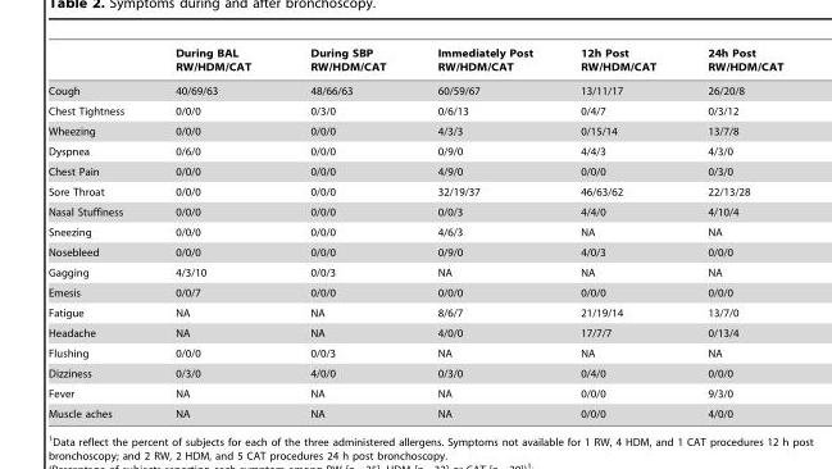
<table><thead><tr><td></td><td>During BAL RW/HDM/CAT</td><td>During SBP RW/HDM/CAT</td><td>Immediately Post RW/HDM/CAT</td><td>12h Post RW/HDM/CAT</td><td>24h Post RW/HDM/CAT</td></tr></thead><tbody><tr><td>Cough</td><td>40/69/63</td><td>48/66/63</td><td>60/59/67</td><td>13/11/17</td><td>26/20/8</td></tr><tr><td>Chest Tightness</td><td>0/0/0</td><td>0/3/0</td><td>0/6/13</td><td>0/4/7</td><td>0/3/12</td></tr><tr><td>Wheezing</td><td>0/0/0</td><td>0/0/0</td><td>4/3/3</td><td>0/15/14</td><td>13/7/8</td></tr><tr><td>Dyspnea</td><td>0/6/0</td><td>0/0/0</td><td>0/9/0</td><td>4/4/3</td><td>4/3/0</td></tr><tr><td>Chest Pain</td><td>0/0/0</td><td>0/0/0</td><td>4/9/0</td><td>0/0/0</td><td>0/3/0</td></tr><tr><td>Sore Throat</td><td>0/0/0</td><td>0/0/0</td><td>32/19/37</td><td>46/63/62</td><td>22/13/28</td></tr><tr><td>Nasal Stuffiness</td><td>0/0/0</td><td>0/0/0</td><td>0/0/3</td><td>4/4/0</td><td>4/10/4</td></tr><tr><td>Sneezing</td><td>0/0/0</td><td>0/0/0</td><td>4/6/3</td><td>NA</td><td>NA</td></tr><tr><td>Nosebleed</td><td>0/0/0</td><td>0/0/0</td><td>0/9/0</td><td>4/0/3</td><td>0/0/0</td></tr><tr><td>Gagging</td><td>4/3/10</td><td>0/0/3</td><td>NA</td><td>NA</td><td>NA</td></tr><tr><td>Emesis</td><td>0/0/7</td><td>0/0/0</td><td>0/0/0</td><td>0/0/0</td><td>0/0/0</td></tr><tr><td>Fatigue</td><td>NA</td><td>NA</td><td>8/6/7</td><td>21/19/14</td><td>13/7/0</td></tr><tr><td>Headache</td><td>NA</td><td>NA</td><td>4/0/0</td><td>17/7/7</td><td>0/13/4</td></tr><tr><td>Flushing</td><td>0/0/0</td><td>0/0/3</td><td>NA</td><td>NA</td><td>NA</td></tr><tr><td>Dizziness</td><td>0/3/0</td><td>4/0/0</td><td>0/3/0</td><td>0/4/0</td><td>0/0/0</td></tr><tr><td>Fever</td><td>NA</td><td>NA</td><td>NA</td><td>0/0/0</td><td>9/3/0</td></tr><tr><td>Muscle aches</td><td>NA</td><td>NA</td><td>NA</td><td>0/0/0</td><td>4/0/0</td></tr></tbody></table>